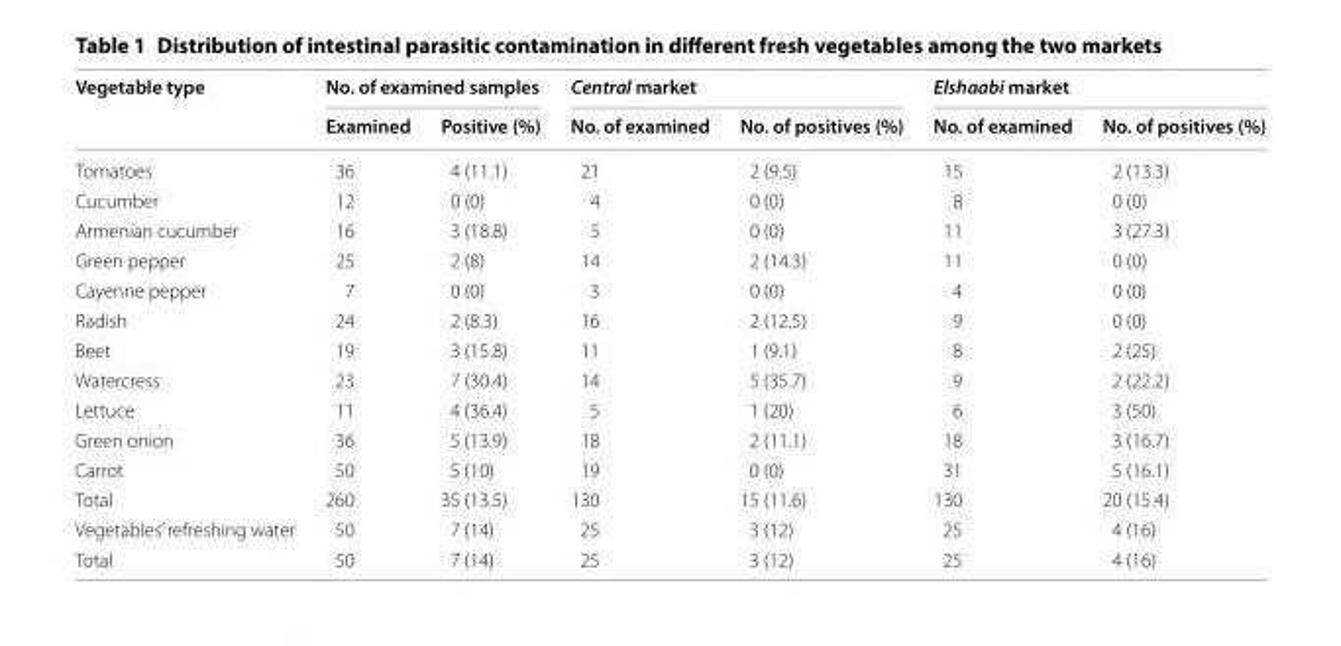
<table><thead><tr><td rowspan="2">Vegetable type</td><td colspan="2">No. of examined samples</td><td colspan="2">Central market</td><td colspan="2">Elshaabi market</td></tr><tr><td>Examined</td><td>Positive (%)</td><td>No. of examined</td><td>No. of positives (%)</td><td>No. of examined</td><td>No. of positives (%)</td></tr></thead><tbody><tr><td>Tomatoes</td><td>36</td><td>4 (11.1)</td><td>21</td><td>2 (9.5)</td><td>15</td><td>2 (13.3)</td></tr><tr><td>Cucumber</td><td>12</td><td>0 (0)</td><td>4</td><td>0 (0)</td><td>8</td><td>0 (0)</td></tr><tr><td>Armenian cucumber</td><td>16</td><td>3 (18.8)</td><td>5</td><td>0 (0)</td><td>11</td><td>3 (27.3)</td></tr><tr><td>Green pepper</td><td>25</td><td>2 (8)</td><td>14</td><td>2 (14.3)</td><td>11</td><td>0 (0)</td></tr><tr><td>Cayenne pepper</td><td>7</td><td>0 (0)</td><td>3</td><td>0 (0)</td><td>4</td><td>0 (0)</td></tr><tr><td>Radish</td><td>24</td><td>2 (8.3)</td><td>16</td><td>2 (12.5)</td><td>9</td><td>0 (0)</td></tr><tr><td>Beet</td><td>19</td><td>3 (15.8)</td><td>11</td><td>1 (9.1)</td><td>8</td><td>2 (25)</td></tr><tr><td>Watercress</td><td>23</td><td>7 (30.4)</td><td>14</td><td>5 (35.7)</td><td>9</td><td>2 (22.2)</td></tr><tr><td>Lettuce</td><td>11</td><td>4 (36.4)</td><td>5</td><td>1 (20)</td><td>6</td><td>3 (50)</td></tr><tr><td>Green onion</td><td>36</td><td>5 (13.9)</td><td>18</td><td>2 (11.1)</td><td>18</td><td>3 (16.7)</td></tr><tr><td>Carrot</td><td>50</td><td>5 (10)</td><td>19</td><td>0 (0)</td><td>31</td><td>5 (16.1)</td></tr><tr><td>Total</td><td>260</td><td>35 (13.5)</td><td>130</td><td>15 (11.6)</td><td>130</td><td>20 (15.4)</td></tr><tr><td>Vegetables’ refreshing water</td><td>50</td><td>7 (14)</td><td>25</td><td>3 (12)</td><td>25</td><td>4 (16)</td></tr><tr><td>Total</td><td>50</td><td>7 (14)</td><td>25</td><td>3 (12)</td><td>25</td><td>4 (16)</td></tr></tbody></table>